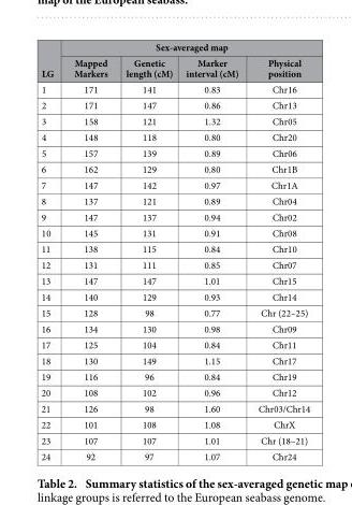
<table><thead><tr><td rowspan="2">LG</td><td colspan="4">Sex-averaged map</td></tr><tr><td>Mapped Markers</td><td>Genetic length (cM)</td><td>Marker interval (cM)</td><td>Physical position</td></tr></thead><tbody><tr><td>1</td><td>171</td><td>141</td><td>0.83</td><td>Chr16</td></tr><tr><td>2</td><td>171</td><td>147</td><td>0.86</td><td>Chr13</td></tr><tr><td>3</td><td>158</td><td>121</td><td>1.32</td><td>Chr05</td></tr><tr><td>4</td><td>148</td><td>118</td><td>0.80</td><td>Chr20</td></tr><tr><td>5</td><td>157</td><td>139</td><td>0.89</td><td>Chr06</td></tr><tr><td>6</td><td>162</td><td>129</td><td>0.80</td><td>Chr1B</td></tr><tr><td>7</td><td>147</td><td>142</td><td>0.97</td><td>Chr1A</td></tr><tr><td>8</td><td>137</td><td>121</td><td>0.89</td><td>Chr04</td></tr><tr><td>9</td><td>147</td><td>137</td><td>0.94</td><td>Chr02</td></tr><tr><td>10</td><td>145</td><td>131</td><td>0.91</td><td>Chr08</td></tr><tr><td>11</td><td>138</td><td>115</td><td>0.84</td><td>Chr10</td></tr><tr><td>12</td><td>131</td><td>111</td><td>0.85</td><td>Chr07</td></tr><tr><td>13</td><td>147</td><td>147</td><td>1.01</td><td>Chr15</td></tr><tr><td>14</td><td>140</td><td>129</td><td>0.93</td><td>Chr14</td></tr><tr><td>15</td><td>128</td><td>98</td><td>0.77</td><td>Chr (22–25)</td></tr><tr><td>16</td><td>134</td><td>130</td><td>0.98</td><td>Chr09</td></tr><tr><td>17</td><td>125</td><td>104</td><td>0.84</td><td>Chr11</td></tr><tr><td>18</td><td>130</td><td>149</td><td>1.15</td><td>Chr17</td></tr><tr><td>19</td><td>116</td><td>96</td><td>0.84</td><td>Chr19</td></tr><tr><td>20</td><td>108</td><td>102</td><td>0.96</td><td>Chr12</td></tr><tr><td>21</td><td>126</td><td>98</td><td>1.60</td><td>Chr03/Chr14</td></tr><tr><td>22</td><td>101</td><td>108</td><td>1.08</td><td>ChrX</td></tr><tr><td>23</td><td>107</td><td>107</td><td>1.01</td><td>Chr (18–21)</td></tr><tr><td>24</td><td>92</td><td>97</td><td>1.07</td><td>Chr24</td></tr></tbody></table>